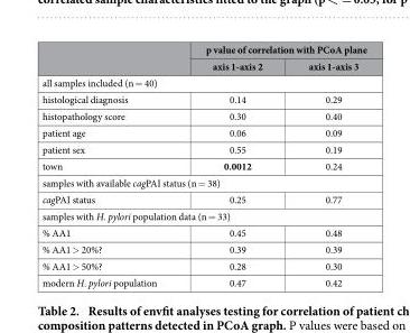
<table><thead><tr><td rowspan="2"></td><td colspan="2">p value of correlation with PCoA plane</td></tr><tr><td>axis 1-axis 2</td><td>axis 1-axis 3</td></tr></thead><tbody><tr><td colspan="3">all samples included (n = 40)</td></tr><tr><td>histological diagnosis</td><td>0.14</td><td>0.29</td></tr><tr><td>histopathology score</td><td>0.30</td><td>0.40</td></tr><tr><td>patient age</td><td>0.06</td><td>0.09</td></tr><tr><td>patient sex</td><td>0.55</td><td>0.19</td></tr><tr><td>town</td><td>0.0012</td><td>0.24</td></tr><tr><td colspan="3">samples with available cagPAI status (n = 38)</td></tr><tr><td>cagPAI status</td><td>0.25</td><td>0.77</td></tr><tr><td colspan="3">samples with H. pylori population data (n = 33)</td></tr><tr><td>% AA1</td><td>0.45</td><td>0.48</td></tr><tr><td>% AA1 &gt; 20%?</td><td>0.39</td><td>0.39</td></tr><tr><td>% AA1 &gt; 50%?</td><td>0.28</td><td>0.30</td></tr><tr><td>modern H. pylori population</td><td>0.47</td><td>0.42</td></tr></tbody></table>